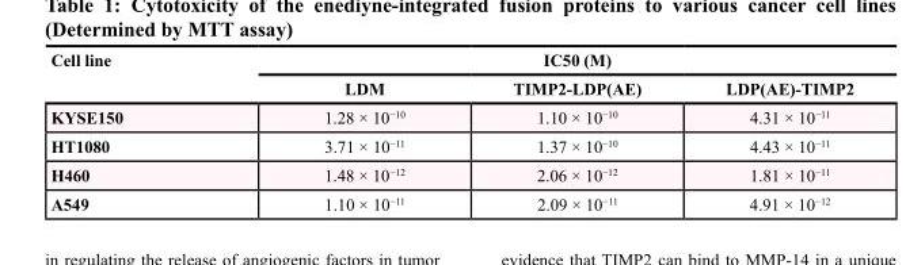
<table><thead><tr><td rowspan="2">Cell line</td><td colspan="3">IC50 (M)</td></tr><tr><td>LDM</td><td>TIMP2-LDP(AE)</td><td>LDP(AE)-TIMP2</td></tr></thead><tbody><tr><td>KYSE150</td><td>1.28 × 10<sup>−10</sup></td><td>1.10 × 10<sup>−10</sup></td><td>4.31 × 10<sup>−11</sup></td></tr><tr><td>HT1080</td><td>3.71 × 10<sup>−11</sup></td><td>1.37 × 10<sup>−10</sup></td><td>4.43 × 10<sup>−11</sup></td></tr><tr><td>H460</td><td>1.48 × 10<sup>−12</sup></td><td>2.06 × 10<sup>−12</sup></td><td>1.81 × 10<sup>−11</sup></td></tr><tr><td>A549</td><td>1.10 × 10<sup>−11</sup></td><td>2.09 × 10<sup>−11</sup></td><td>4.91 × 10<sup>−12</sup></td></tr></tbody></table>